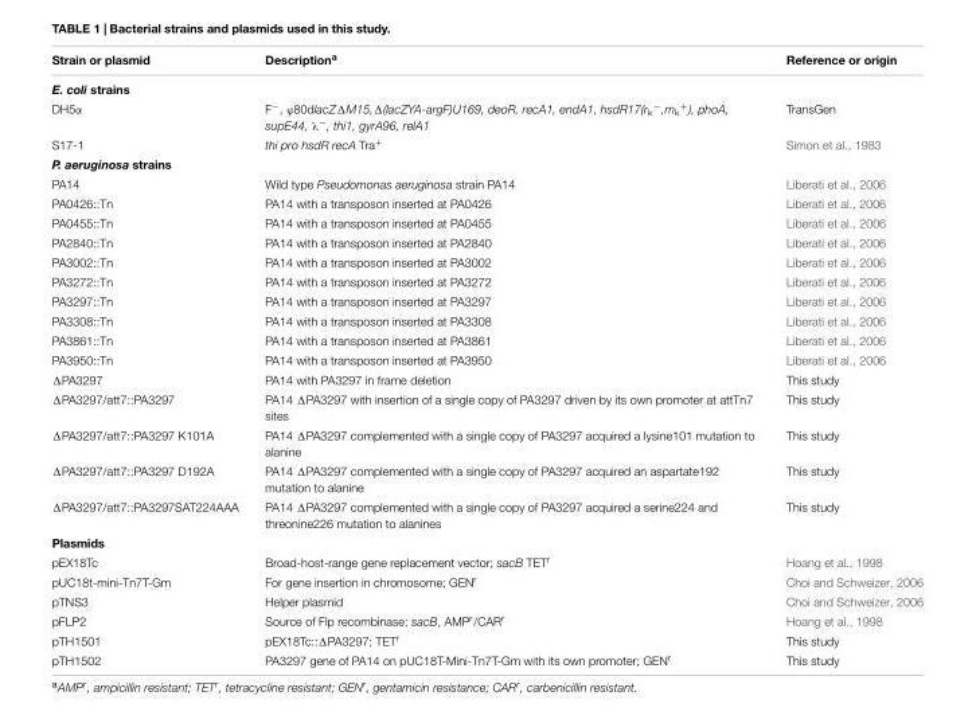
<table><thead><tr><td>Strain or plasmid</td><td>Description<sup>a</sup></td><td>Reference or origin</td></tr></thead><tbody><tr><td colspan="3">E. coli strains</td></tr><tr><td>DH5α</td><td>F<sup>−</sup>, ϕ80dlacZΔM15,Δ(lacZYA-argF)U169, deoR, recA1, endA1, hsdR17(r<sub>k</sub><sup>−</sup>,m<sub>k</sub><sup>+</sup>), phoA, supE44, λ<sup>−</sup>, thi1, gyrA96, relA1</td><td>TransGen</td></tr><tr><td>S17-1</td><td>thi pro hsdR recA Tra<sup>+</sup></td><td>Simon et al., 1983</td></tr><tr><td colspan="3">P. aeruginosa strains</td></tr><tr><td>PA14</td><td>Wild type Pseudomonas aeruginosa strain PA14</td><td>Liberati et al., 2006</td></tr><tr><td>PA0426::Tn</td><td>PA14 with a transposon inserted at PA0426</td><td>Liberati et al., 2006</td></tr><tr><td>PA0455::Tn</td><td>PA14 with a transposon inserted at PA0455</td><td>Liberati et al., 2006</td></tr><tr><td>PA2840::Tn</td><td>PA14 with a transposon inserted at PA2840</td><td>Liberati et al., 2006</td></tr><tr><td>PA3002::Tn</td><td>PA14 with a transposon inserted at PA3002</td><td>Liberati et al., 2006</td></tr><tr><td>PA3272::Tn</td><td>PA14 with a transposon inserted at PA3272</td><td>Liberati et al., 2006</td></tr><tr><td>PA3297::Tn</td><td>PA14 with a transposon inserted at PA3297</td><td>Liberati et al., 2006</td></tr><tr><td>PA3308::Tn</td><td>PA14 with a transposon inserted at PA3308</td><td>Liberati et al., 2006</td></tr><tr><td>PA3861::Tn</td><td>PA14 with a transposon inserted at PA3861</td><td>Liberati et al., 2006</td></tr><tr><td>PA3950::Tn</td><td>PA14 with a transposon inserted at PA3950</td><td>Liberati et al., 2006</td></tr><tr><td>ΔPA3297</td><td>PA14 with PA3297 in frame deletion</td><td>This study</td></tr><tr><td>ΔPA3297/att7::PA3297</td><td>PA14 ΔPA3297 with insertion of a single copy of PA3297 driven by its own promoter at attTn7 sites</td><td>This study</td></tr><tr><td>ΔPA3297/att7::PA3297 K101A</td><td>PA14 ΔPA3297 complemented with a single copy of PA3297 acquired a lysine101 mutation to alanine</td><td>This study</td></tr><tr><td>ΔPA3297/att7::PA3297 D192A</td><td>PA14 ΔPA3297 complemented with a single copy of PA3297 acquired an aspartate192 mutation to alanine</td><td>This study</td></tr><tr><td>ΔPA3297/att7::PA3297SAT224AAA</td><td>PA14 ΔPA3297 complemented with a single copy of PA3297 acquired a serine224 and threonine226 mutation to alanines</td><td>This study</td></tr><tr><td colspan="3">Plasmids</td></tr><tr><td>pEX18Tc</td><td>Broad-host-range gene replacement vector; sacB TET<sup>r</sup></td><td>Hoang et al., 1998</td></tr><tr><td>pUC18t-mini-Tn7T-Gm</td><td>For gene insertion in chromosome; GEN<sup>r</sup></td><td>Choi and Schweizer, 2006</td></tr><tr><td>pTNS3</td><td>Helper plasmid</td><td>Choi and Schweizer, 2006</td></tr><tr><td>pFLP2</td><td>Source of Flp recombinase; sacB, AMP<sup>r</sup>/CAR<sup>r</sup></td><td>Hoang et al., 1998</td></tr><tr><td>pTH1501</td><td>pEX18Tc::ΔPA3297; TET<sup>r</sup></td><td>This study</td></tr><tr><td>pTH1502</td><td>PA3297 gene of PA14 on pUC18T-Mini-Tn7T-Gm with its own promoter; GEN<sup>r</sup></td><td>This study</td></tr></tbody></table>